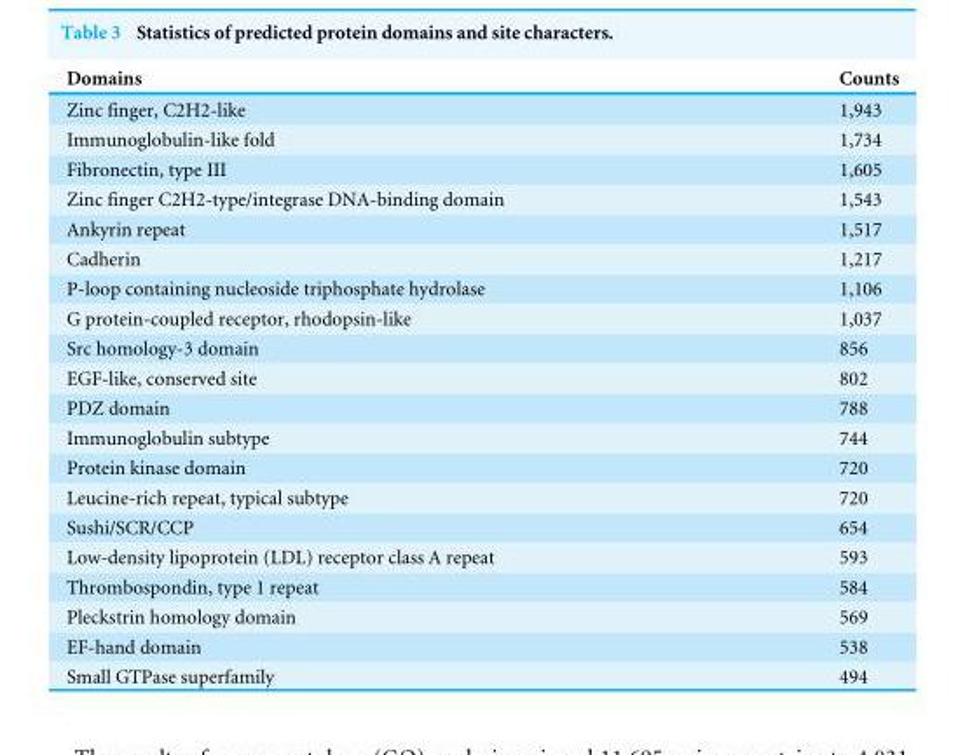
<table><thead><tr><td>Domains</td><td>Counts</td></tr></thead><tbody><tr><td>Zinc finger, C2H2-like</td><td>1,943</td></tr><tr><td>Immunoglobulin-like fold</td><td>1,734</td></tr><tr><td>Fibronectin, type III</td><td>1,605</td></tr><tr><td>Zinc finger C2H2-type/integrase DNA-binding domain</td><td>1,543</td></tr><tr><td>Ankyrin repeat</td><td>1,517</td></tr><tr><td>Cadherin</td><td>1,217</td></tr><tr><td>P-loop containing nucleoside triphosphate hydrolase</td><td>1,106</td></tr><tr><td>G protein-coupled receptor, rhodopsin-like</td><td>1,037</td></tr><tr><td>Src homology-3 domain</td><td>856</td></tr><tr><td>EGF-like, conserved site</td><td>802</td></tr><tr><td>PDZ domain</td><td>788</td></tr><tr><td>Immunoglobulin subtype</td><td>744</td></tr><tr><td>Protein kinase domain</td><td>720</td></tr><tr><td>Leucine-rich repeat, typical subtype</td><td>720</td></tr><tr><td>Sushi/SCR/CCP</td><td>654</td></tr><tr><td>Low-density lipoprotein (LDL) receptor class A repeat</td><td>593</td></tr><tr><td>Thrombospondin, type 1 repeat</td><td>584</td></tr><tr><td>Pleckstrin homology domain</td><td>569</td></tr><tr><td>EF-hand domain</td><td>538</td></tr><tr><td>Small GTPase superfamily</td><td>494</td></tr></tbody></table>